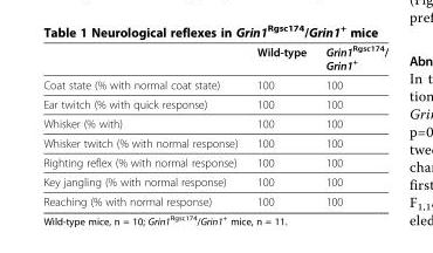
<table><thead><tr><td></td><td>Wild-type</td><td>Grin1<sup>Rgsc174</sup>/ Grin1<sup>+</sup></td></tr></thead><tbody><tr><td>Coat state (% with normal coat state)</td><td>100</td><td>100</td></tr><tr><td>Ear twitch (% with quick response)</td><td>100</td><td>100</td></tr><tr><td>Whisker (% with)</td><td>100</td><td>100</td></tr><tr><td>Whisker twitch (% with normal response)</td><td>100</td><td>100</td></tr><tr><td>Righting reflex (% with normal response)</td><td>100</td><td>100</td></tr><tr><td>Key jangling (% with normal response)</td><td>100</td><td>100</td></tr><tr><td>Reaching (% with normal response)</td><td>100</td><td>100</td></tr></tbody></table>